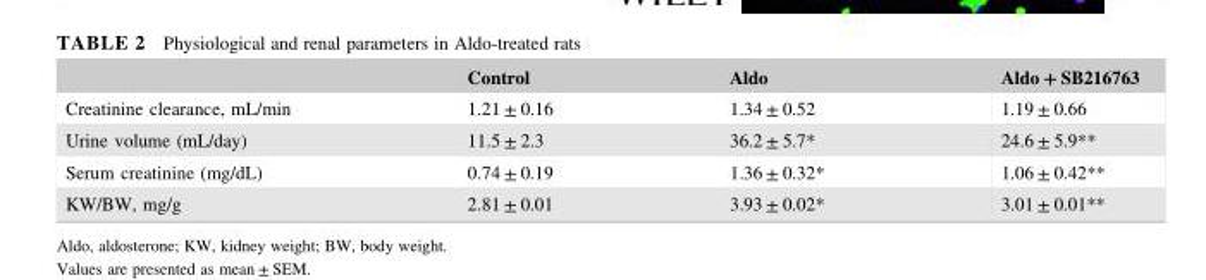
<table><thead><tr><td></td><td>Control</td><td>Aldo</td><td>Aldo + SB216763</td></tr></thead><tbody><tr><td>Creatinine clearance, mL/min</td><td>1.21 ± 0.16</td><td>1.34 ± 0.52</td><td>1.19 ± 0.66</td></tr><tr><td>Urine volume (mL/day)</td><td>11.5 ± 2.3</td><td>36.2 ± 5.7*</td><td>24.6 ± 5.9**</td></tr><tr><td>Serum creatinine (mg/dL)</td><td>0.74 ± 0.19</td><td>1.36 ± 0.32*</td><td>1.06 ± 0.42**</td></tr><tr><td>KW/BW, mg/g</td><td>2.81 ± 0.01</td><td>3.93 ± 0.02*</td><td>3.01 ± 0.01**</td></tr></tbody></table>